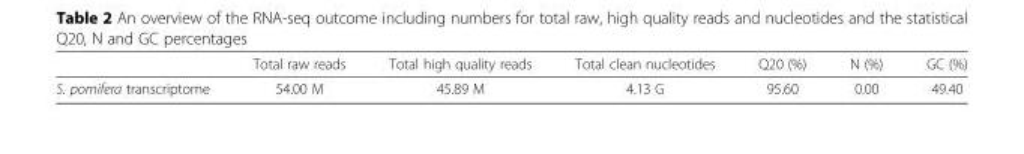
<table><thead><tr><td></td><td>Total raw reads</td><td>Total high quality reads</td><td>Total clean nucleotides</td><td>Q20 (%)</td><td>N (%)</td><td>GC (%)</td></tr></thead><tbody><tr><td>S. pomifera transcriptome</td><td>54.00 M</td><td>45.89 M</td><td>4.13 G</td><td>95.60</td><td>0.00</td><td>49.40</td></tr></tbody></table>